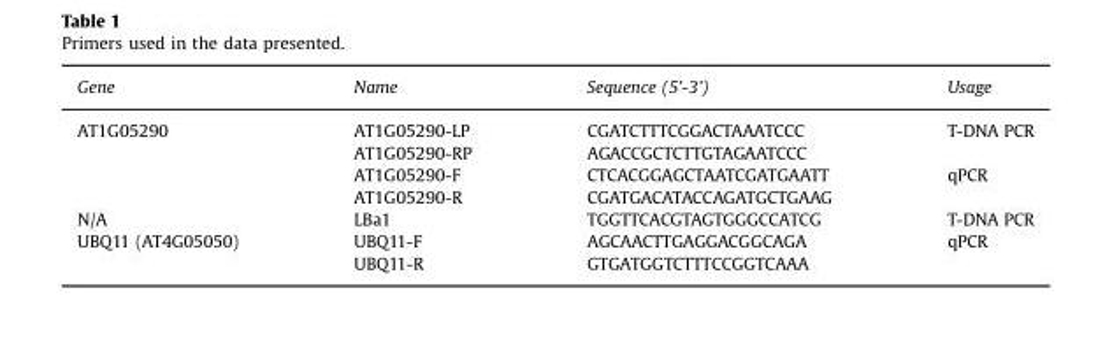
<table><thead><tr><td>Gene</td><td>Name</td><td>Sequence (5’-3’)</td><td>Usage</td></tr></thead><tbody><tr><td rowspan="4">AT1G05290</td><td>AT1G05290-LP</td><td>CGATCTTTCGGACTAAATCCC</td><td>T-DNA PCR</td></tr><tr><td>AT1G05290-RP</td><td>AGACCGCTCTTGTAGAATCCC</td><td></td></tr><tr><td>AT1G05290-F</td><td>CTCACGGAGCTAATCGATGAATT</td><td>qPCR</td></tr><tr><td>AT1G05290-R</td><td>CGATGACATACCAGATGCTGAAG</td><td></td></tr><tr><td>N/A</td><td>LBa1</td><td>TGGTTCACGTAGTGGGCCATCG</td><td>T-DNA PCR</td></tr><tr><td rowspan="2">UBQ11 (AT4G05050)</td><td>UBQ11-F</td><td>AGCAACTTGAGGACGGCAGA</td><td>qPCR</td></tr><tr><td>UBQ11-R</td><td>GTGATGGTCTTTCCGGTCAAA</td><td></td></tr></tbody></table>